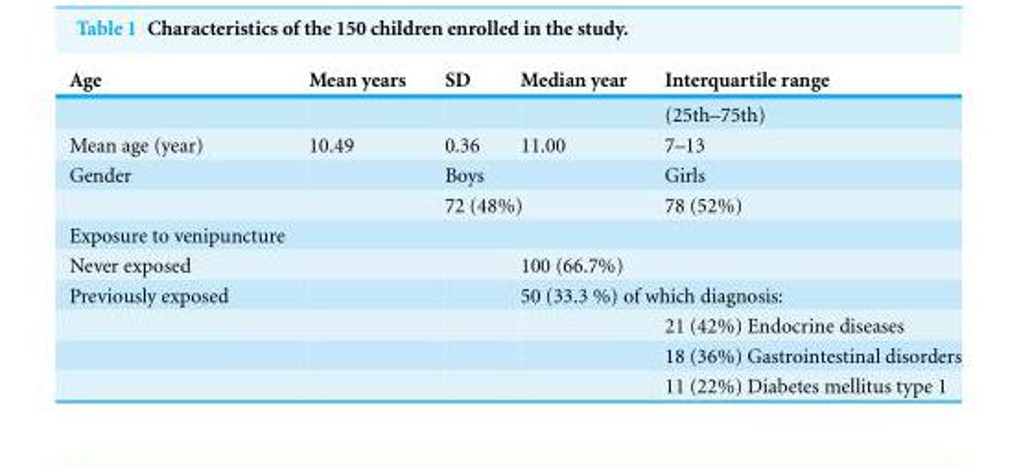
<table><thead><tr><td>Age</td><td>Mean years</td><td>SD</td><td>Median year</td><td>Interquartile range</td></tr></thead><tbody><tr><td></td><td></td><td></td><td></td><td>(25th–75th)</td></tr><tr><td>Mean age (year)</td><td>10.49</td><td>0.36</td><td>11.00</td><td>7–13</td></tr><tr><td rowspan="2">Gender</td><td></td><td colspan="2">Boys</td><td>Girls</td></tr><tr><td></td><td colspan="2">72 (48%)</td><td>78 (52%)</td></tr><tr><td colspan="5">Exposure to venipuncture</td></tr><tr><td>Never exposed</td><td></td><td></td><td colspan="2">100 (66.7%)</td></tr><tr><td rowspan="4">Previously exposed</td><td></td><td></td><td colspan="2">50 (33.3 %) of which diagnosis:</td></tr><tr><td></td><td></td><td></td><td>21 (42%) Endocrine diseases</td></tr><tr><td></td><td></td><td></td><td>18 (36%) Gastrointestinal disorders</td></tr><tr><td></td><td></td><td></td><td>11 (22%) Diabetes mellitus type 1</td></tr></tbody></table>